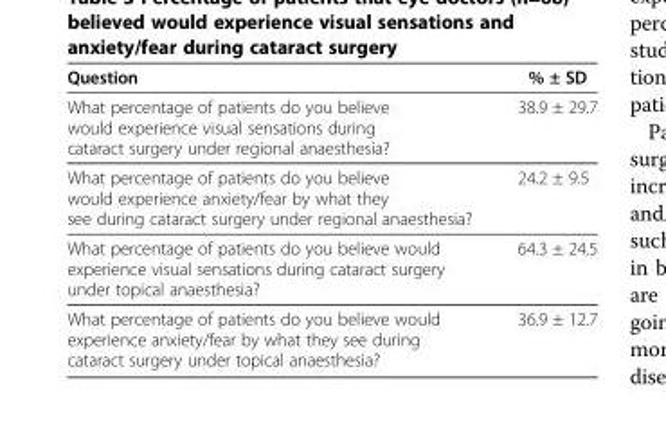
<table><thead><tr><td>Question</td><td>% ± SD</td></tr></thead><tbody><tr><td>What percentage of patients do you believe would experience visual sensations during cataract surgery under regional anaesthesia?</td><td>38.9 ± 29.7</td></tr><tr><td>What percentage of patients do you believe would experience anxiety/fear by what they see during cataract surgery under regional anaesthesia?</td><td>24.2 ± 9.5</td></tr><tr><td>What percentage of patients do you believe would experience visual sensations during cataract surgery under topical anaesthesia?</td><td>64.3 ± 24.5</td></tr><tr><td>What percentage of patients do you believe would experience anxiety/fear by what they see during cataract surgery under topical anaesthesia?</td><td>36.9 ± 12.7</td></tr></tbody></table>